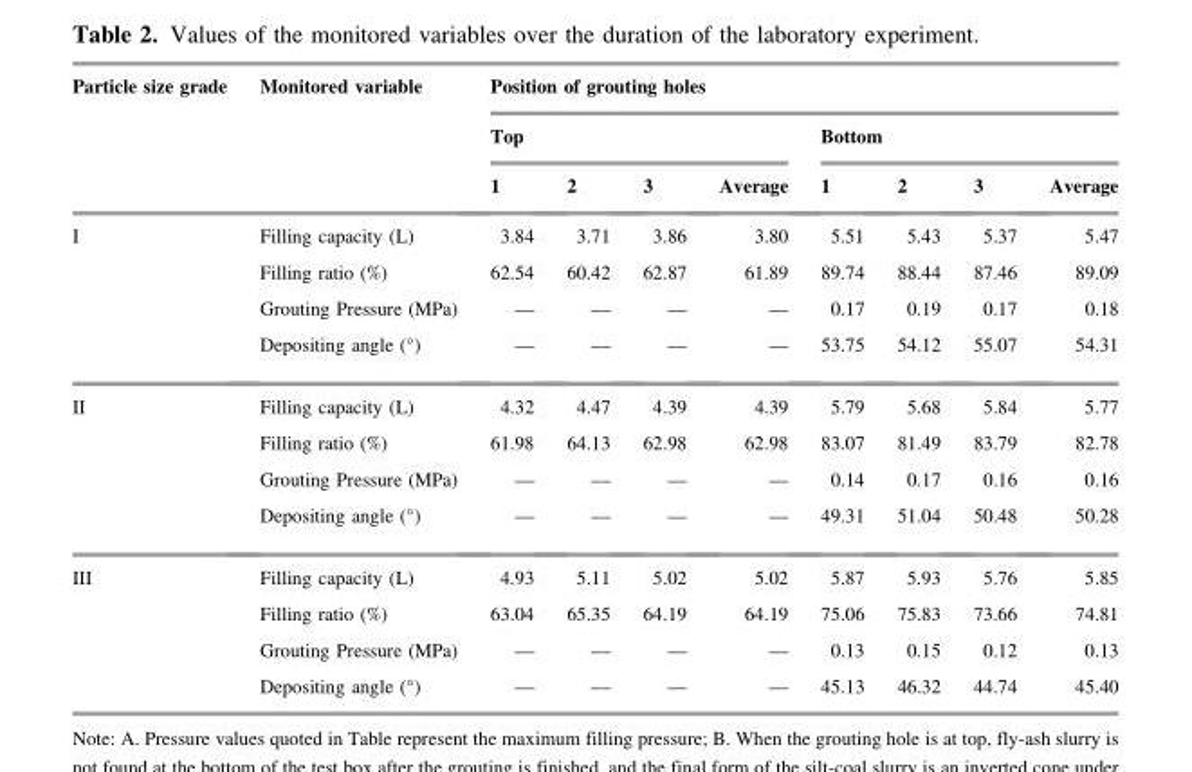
<table><thead><tr><td rowspan="3">Particle size grade</td><td rowspan="3">Monitored variable</td><td colspan="8">Position of grouting holes</td></tr><tr><td colspan="4">Top</td><td colspan="4">Bottom</td></tr><tr><td>1</td><td>2</td><td>3</td><td>Average</td><td>1</td><td>2</td><td>3</td><td>Average</td></tr></thead><tbody><tr><td rowspan="4">I</td><td>Filling capacity (L)</td><td>3.84</td><td>3.71</td><td>3.86</td><td>3.80</td><td>5.51</td><td>5.43</td><td>5.37</td><td>5.47</td></tr><tr><td>Filling ratio (%)</td><td>62.54</td><td>60.42</td><td>62.87</td><td>61.89</td><td>89.74</td><td>88.44</td><td>87.46</td><td>89.09</td></tr><tr><td>Grouting Pressure (MPa)</td><td>––</td><td>––</td><td>––</td><td>––</td><td>0.17</td><td>0.19</td><td>0.17</td><td>0.18</td></tr><tr><td>Depositing angle (°)</td><td>––</td><td>––</td><td>––</td><td>––</td><td>53.75</td><td>54.12</td><td>55.07</td><td>54.31</td></tr><tr><td rowspan="4">II</td><td>Filling capacity (L)</td><td>4.32</td><td>4.47</td><td>4.39</td><td>4.39</td><td>5.79</td><td>5.68</td><td>5.84</td><td>5.77</td></tr><tr><td>Filling ratio (%)</td><td>61.98</td><td>64.13</td><td>62.98</td><td>62.98</td><td>83.07</td><td>81.49</td><td>83.79</td><td>82.78</td></tr><tr><td>Grouting Pressure (MPa)</td><td>––</td><td>––</td><td>––</td><td>––</td><td>0.14</td><td>0.17</td><td>0.16</td><td>0.16</td></tr><tr><td>Depositing angle (°)</td><td>––</td><td>––</td><td>––</td><td>––</td><td>49.31</td><td>51.04</td><td>50.48</td><td>50.28</td></tr><tr><td rowspan="4">III</td><td>Filling capacity (L)</td><td>4.93</td><td>5.11</td><td>5.02</td><td>5.02</td><td>5.87</td><td>5.93</td><td>5.76</td><td>5.85</td></tr><tr><td>Filling ratio (%)</td><td>63.04</td><td>65.35</td><td>64.19</td><td>64.19</td><td>75.06</td><td>75.83</td><td>73.66</td><td>74.81</td></tr><tr><td>Grouting Pressure (MPa)</td><td>––</td><td>––</td><td>––</td><td>––</td><td>0.13</td><td>0.15</td><td>0.12</td><td>0.13</td></tr><tr><td>Depositing angle (°)</td><td>––</td><td>––</td><td>––</td><td>––</td><td>45.13</td><td>46.32</td><td>44.74</td><td>45.40</td></tr></tbody></table>